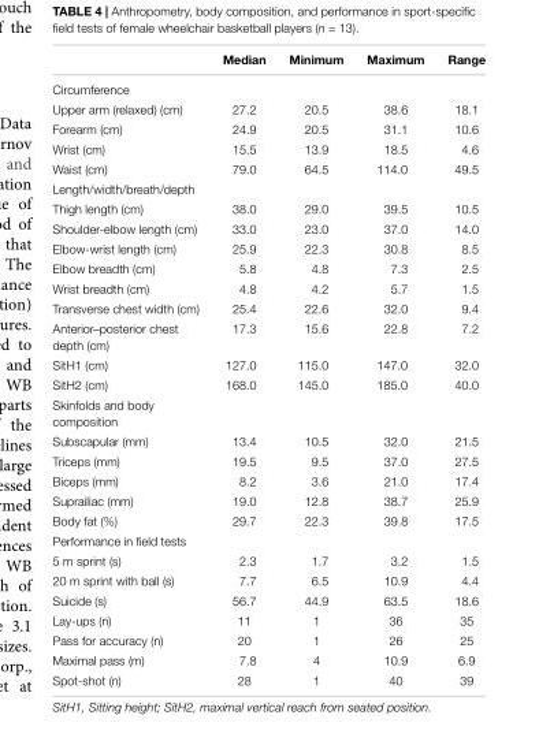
<table><thead><tr><td></td><td>Median</td><td>Minimum</td><td>Maximum</td><td>Range</td></tr></thead><tbody><tr><td colspan="5">Circumference</td></tr><tr><td>Upper arm (relaxed) (cm)</td><td>27.2</td><td>20.5</td><td>38.6</td><td>18.1</td></tr><tr><td>Forearm (cm)</td><td>24.9</td><td>20.5</td><td>31.1</td><td>10.6</td></tr><tr><td>Wrist (cm)</td><td>15.5</td><td>13.9</td><td>18.5</td><td>4.6</td></tr><tr><td>Waist (cm)</td><td>79.0</td><td>64.5</td><td>114.0</td><td>49.5</td></tr><tr><td colspan="5">Length/width/breath/depth</td></tr><tr><td>Thigh length (cm)</td><td>38.0</td><td>29.0</td><td>39.5</td><td>10.5</td></tr><tr><td>Shoulder-elbow length (cm)</td><td>33.0</td><td>23.0</td><td>37.0</td><td>14.0</td></tr><tr><td>Elbow-wrist length (cm)</td><td>25.9</td><td>22.3</td><td>30.8</td><td>8.5</td></tr><tr><td>Elbow breadth (cm)</td><td>5.8</td><td>4.8</td><td>7.3</td><td>2.5</td></tr><tr><td>Wrist breadth (cm)</td><td>4.8</td><td>4.2</td><td>5.7</td><td>1.5</td></tr><tr><td>Transverse chest width (cm)</td><td>25.4</td><td>22.6</td><td>32.0</td><td>9.4</td></tr><tr><td>Anterior–posterior chest depth (cm)</td><td>17.3</td><td>15.6</td><td>22.8</td><td>7.2</td></tr><tr><td>SitH1 (cm)</td><td>127.0</td><td>115.0</td><td>147.0</td><td>32.0</td></tr><tr><td>SitH2 (cm)</td><td>168.0</td><td>145.0</td><td>185.0</td><td>40.0</td></tr><tr><td colspan="5">Skinfolds and body composition</td></tr><tr><td>Subscapular (mm)</td><td>13.4</td><td>10.5</td><td>32.0</td><td>21.5</td></tr><tr><td>Triceps (mm)</td><td>19.5</td><td>9.5</td><td>37.0</td><td>27.5</td></tr><tr><td>Biceps (mm)</td><td>8.2</td><td>3.6</td><td>21.0</td><td>17.4</td></tr><tr><td>Suprailiac (mm)</td><td>19.0</td><td>12.8</td><td>38.7</td><td>25.9</td></tr><tr><td>Body fat (%)</td><td>29.7</td><td>22.3</td><td>39.8</td><td>17.5</td></tr><tr><td colspan="5">Performance in field tests</td></tr><tr><td>5 m sprint (s)</td><td>2.3</td><td>1.7</td><td>3.2</td><td>1.5</td></tr><tr><td>20 m sprint with ball (s)</td><td>7.7</td><td>6.5</td><td>10.9</td><td>4.4</td></tr><tr><td>Suicide (s)</td><td>56.7</td><td>44.9</td><td>63.5</td><td>18.6</td></tr><tr><td>Lay-ups (n)</td><td>11</td><td>1</td><td>36</td><td>35</td></tr><tr><td>Pass for accuracy (n)</td><td>20</td><td>1</td><td>26</td><td>25</td></tr><tr><td>Maximal pass (m)</td><td>7.8</td><td>4</td><td>10.9</td><td>6.9</td></tr><tr><td>Spot-shot (n)</td><td>28</td><td>1</td><td>40</td><td>39</td></tr></tbody></table>